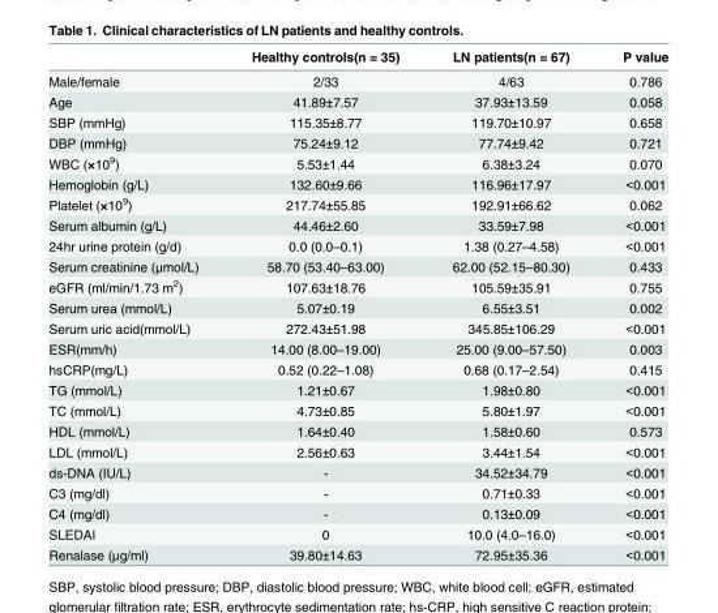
<table><thead><tr><td></td><td>Healthy controls(n = 35)</td><td>LN patients(n = 67)</td><td>P value</td></tr></thead><tbody><tr><td>Male/female</td><td>2/33</td><td>4/63</td><td>0.786</td></tr><tr><td>Age</td><td>41.89±7.57</td><td>37.93±13.59</td><td>0.058</td></tr><tr><td>SBP (mmHg)</td><td>115.35±8.77</td><td>119.70±10.97</td><td>0.658</td></tr><tr><td>DBP (mmHg)</td><td>75.24±9.12</td><td>77.74±9.42</td><td>0.721</td></tr><tr><td>WBC (×10<sup>9</sup>)</td><td>5.53±1.44</td><td>6.38±3.24</td><td>0.070</td></tr><tr><td>Hemoglobin (g/L)</td><td>132.60±9.66</td><td>116.96±17.97</td><td>&lt;0.001</td></tr><tr><td>Platelet (×10<sup>9</sup>)</td><td>217.74±55.85</td><td>192.91±66.62</td><td>0.062</td></tr><tr><td>Serum albumin (g/L)</td><td>44.46±2.60</td><td>33.59±7.98</td><td>&lt;0.001</td></tr><tr><td>24hr urine protein (g/d)</td><td>0.0 (0.0–0.1)</td><td>1.38 (0.27–4.58)</td><td>&lt;0.001</td></tr><tr><td>Serum creatinine (μmol/L)</td><td>58.70 (53.40–63.00)</td><td>62.00 (52.15–80.30)</td><td>0.433</td></tr><tr><td>eGFR (ml/min/1.73 m<sup>2</sup>)</td><td>107.63±18.76</td><td>105.59±35.91</td><td>0.755</td></tr><tr><td>Serum urea (mmol/L)</td><td>5.07±0.19</td><td>6.55±3.51</td><td>0.002</td></tr><tr><td>Serum uric acid(mmol/L)</td><td>272.43±51.98</td><td>345.85±106.29</td><td>&lt;0.001</td></tr><tr><td>ESR(mm/h)</td><td>14.00 (8.00–19.00)</td><td>25.00 (9.00–57.50)</td><td>0.003</td></tr><tr><td>hsCRP(mg/L)</td><td>0.52 (0.22–1.08)</td><td>0.68 (0.17–2.54)</td><td>0.415</td></tr><tr><td>TG (mmol/L)</td><td>1.21±0.67</td><td>1.98±0.80</td><td>&lt;0.001</td></tr><tr><td>TC (mmol/L)</td><td>4.73±0.85</td><td>5.80±1.97</td><td>&lt;0.001</td></tr><tr><td>HDL (mmol/L)</td><td>1.64±0.40</td><td>1.58±0.60</td><td>0.573</td></tr><tr><td>LDL (mmol/L)</td><td>2.56±0.63</td><td>3.44±1.54</td><td>&lt;0.001</td></tr><tr><td>ds-DNA (IU/L)</td><td>-</td><td>34.52±34.79</td><td>&lt;0.001</td></tr><tr><td>C3 (mg/dl)</td><td>-</td><td>0.71±0.33</td><td>&lt;0.001</td></tr><tr><td>C4 (mg/dl)</td><td>-</td><td>0.13±0.09</td><td>&lt;0.001</td></tr><tr><td>SLEDAI</td><td>0</td><td>10.0 (4.0–16.0)</td><td>&lt;0.001</td></tr><tr><td>Renalase (μg/ml)</td><td>39.80±14.63</td><td>72.95±35.36</td><td>&lt;0.001</td></tr></tbody></table>